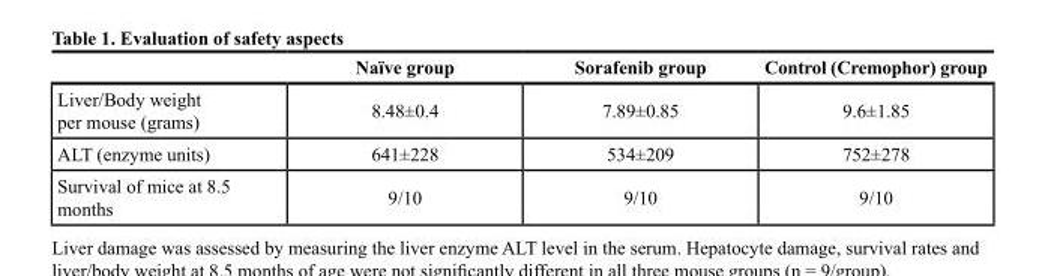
<table><thead><tr><td></td><td>Naïve group</td><td>Sorafenib group</td><td>Control (Cremophor) group</td></tr></thead><tbody><tr><td>Liver/Body weight per mouse (grams)</td><td>8.48±0.4</td><td>7.89±0.85</td><td>9.6±1.85</td></tr><tr><td>ALT (enzyme units)</td><td>641±228</td><td>534±209</td><td>752±278</td></tr><tr><td>Survival of mice at 8.5 months</td><td>9/10</td><td>9/10</td><td>9/10</td></tr></tbody></table>